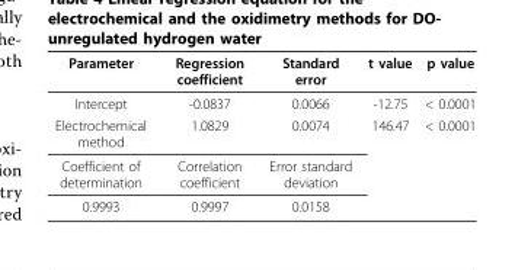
<table><thead><tr><td>Parameter</td><td>Regression coefficient</td><td>Standard error</td><td>t value</td><td>p value</td></tr></thead><tbody><tr><td>Intercept</td><td>-0.0837</td><td>0.0066</td><td>-12.75</td><td>&lt; 0.0001</td></tr><tr><td>Electrochemical method</td><td>1.0829</td><td>0.0074</td><td>146.47</td><td>&lt; 0.0001</td></tr><tr><td>Coefficient of determination</td><td>Correlation coefficient</td><td>Error standard deviation</td><td></td><td></td></tr><tr><td>0.9993</td><td>0.9997</td><td>0.0158</td><td></td><td></td></tr></tbody></table>